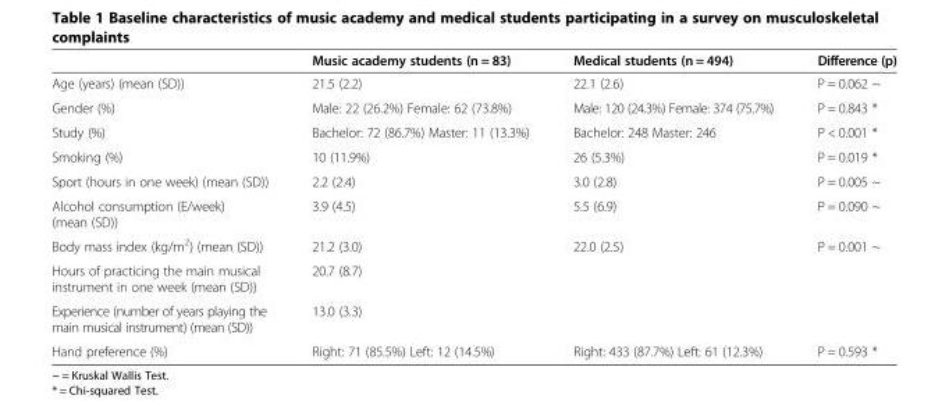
<table><thead><tr><td></td><td>Music academy students (n = 83)</td><td>Medical students (n = 494)</td><td>Difference (p)</td></tr></thead><tbody><tr><td>Age (years) (mean (SD))</td><td>21.5 (2.2)</td><td>22.1 (2.6)</td><td>P = 0.062 ~</td></tr><tr><td>Gender (%)</td><td>Male: 22 (26.2%) Female: 62 (73.8%)</td><td>Male: 120 (24.3%) Female: 374 (75.7%)</td><td>P = 0.843 *</td></tr><tr><td>Study (%)</td><td>Bachelor: 72 (86.7%) Master: 11 (13.3%)</td><td>Bachelor: 248 Master: 246</td><td>P &lt; 0.001 *</td></tr><tr><td>Smoking (%)</td><td>10 (11.9%)</td><td>26 (5.3%)</td><td>P = 0.019 *</td></tr><tr><td>Sport (hours in one week) (mean (SD))</td><td>2.2 (2.4)</td><td>3.0 (2.8)</td><td>P = 0.005 ~</td></tr><tr><td>Alcohol consumption (E/week) (mean (SD))</td><td>3.9 (4.5)</td><td>5.5 (6.9)</td><td>P = 0.090 ~</td></tr><tr><td>Body mass index (kg/m<sup>2</sup>) (mean (SD))</td><td>21.2 (3.0)</td><td>22.0 (2.5)</td><td>P = 0.001 ~</td></tr><tr><td>Hours of practicing the main musical instrument in one week (mean (SD))</td><td>20.7 (8.7)</td><td></td><td></td></tr><tr><td>Experience (number of years playing the main musical instrument) (mean (SD))</td><td>13.0 (3.3)</td><td></td><td></td></tr><tr><td>Hand preference (%)</td><td>Right: 71 (85.5%) Left: 12 (14.5%)</td><td>Right: 433 (87.7%) Left: 61 (12.3%)</td><td>P = 0.593 *</td></tr></tbody></table>